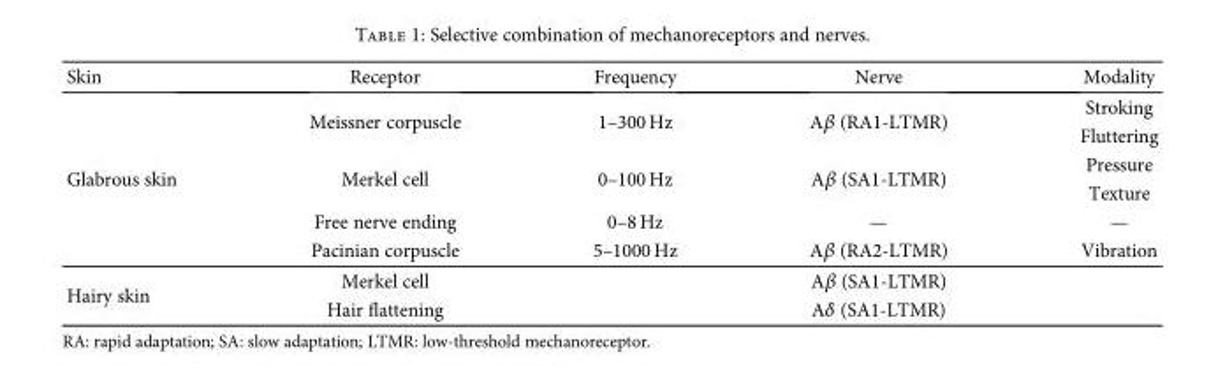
<table><thead><tr><td>Skin</td><td>Receptor</td><td>Frequency</td><td>Nerve</td><td>Modality</td></tr></thead><tbody><tr><td rowspan="6">Glabrous skin</td><td rowspan="2">Meissner corpuscle</td><td rowspan="2">1–300 Hz</td><td rowspan="2">Aβ (RA1-LTMR)</td><td>Stroking</td></tr><tr><td>Fluttering</td></tr><tr><td rowspan="2">Merkel cell</td><td rowspan="2">0–100 Hz</td><td rowspan="2">Aβ (SA1-LTMR)</td><td>Pressure</td></tr><tr><td>Texture</td></tr><tr><td>Free nerve ending</td><td>0–8 Hz</td><td>—</td><td>—</td></tr><tr><td>Pacinian corpuscle</td><td>5–1000 Hz</td><td>Aβ (RA2-LTMR)</td><td>Vibration</td></tr><tr><td rowspan="2">Hairy skin</td><td>Merkel cell</td><td></td><td>Aβ (SA1-LTMR)</td><td></td></tr><tr><td>Hair flattening</td><td></td><td>Aδ (SA1-LTMR)</td><td></td></tr></tbody></table>